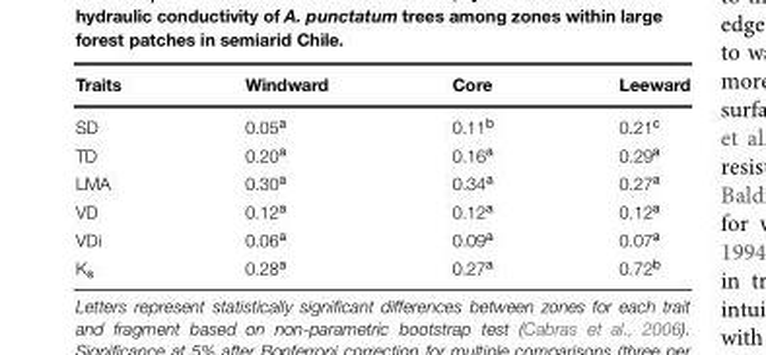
<table><thead><tr><td>Traits</td><td>Windward</td><td>Core</td><td>Leeward</td></tr></thead><tbody><tr><td>SD</td><td>0.05<sup>a</sup></td><td>0.11<sup>b</sup></td><td>0.21<sup>c</sup></td></tr><tr><td>TD</td><td>0.20<sup>a</sup></td><td>0.16<sup>a</sup></td><td>0.29<sup>a</sup></td></tr><tr><td>LMA</td><td>0.30<sup>a</sup></td><td>0.34<sup>a</sup></td><td>0.27<sup>a</sup></td></tr><tr><td>VD</td><td>0.12<sup>a</sup></td><td>0.12<sup>a</sup></td><td>0.12<sup>a</sup></td></tr><tr><td>VDi</td><td>0.06<sup>a</sup></td><td>0.09<sup>a</sup></td><td>0.07<sup>a</sup></td></tr><tr><td>K<sub>s</sub></td><td>0.28<sup>a</sup></td><td>0.27<sup>a</sup></td><td>0.72<sup>b</sup></td></tr></tbody></table>